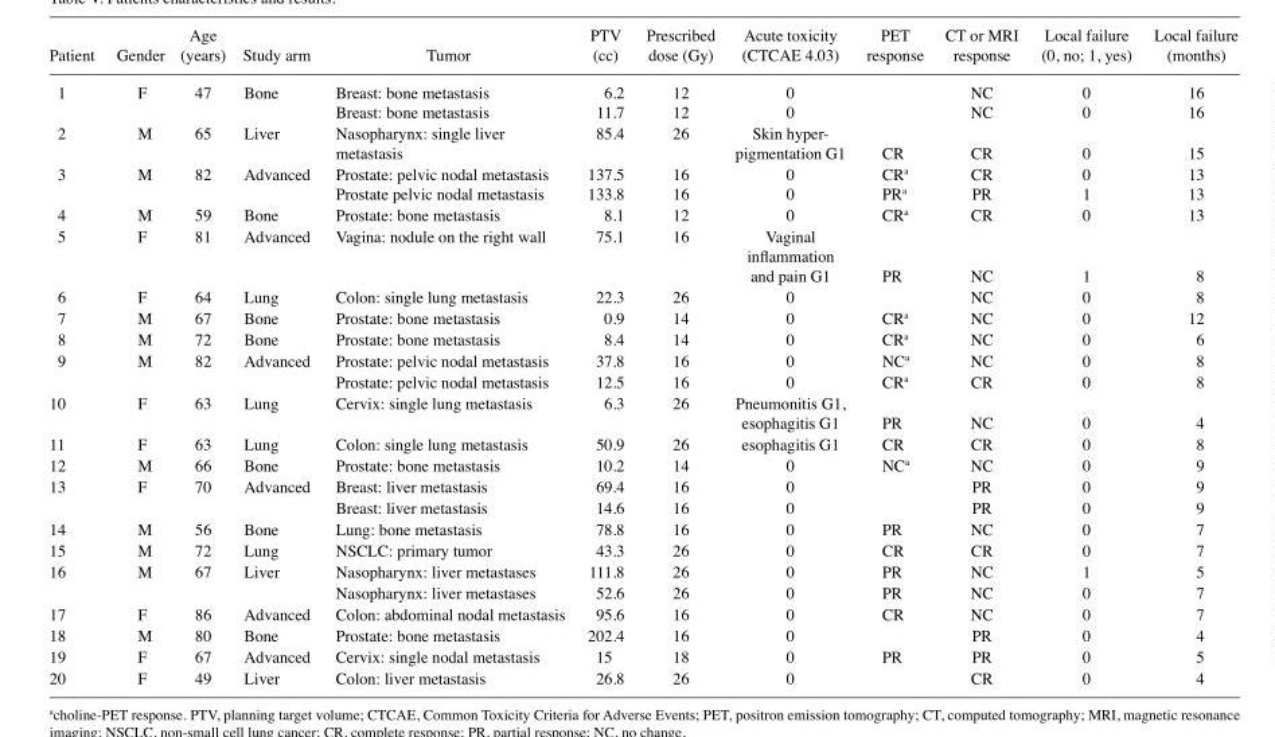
<table><thead><tr><td>Patient</td><td>Gender</td><td>(years)</td><td>Study arm</td><td>Tumor</td><td>(cc)</td><td>dose (Gy)</td><td>(CTCAE 4.03)</td><td>response</td><td>response</td><td>(0, no; 1, yes)</td><td>(months)</td></tr></thead><tbody><tr><td rowspan="2">1</td><td>F</td><td>47</td><td>Bone</td><td>Breast: bone metastasis</td><td>6.2</td><td>12</td><td>0</td><td></td><td>NC</td><td>0</td><td>16</td></tr><tr><td></td><td></td><td></td><td>Breast: bone metastasis</td><td>11.7</td><td>12</td><td>0</td><td></td><td>NC</td><td>0</td><td>16</td></tr><tr><td>2</td><td>M</td><td>65</td><td>Liver</td><td>Nasopharynx: single liver metastasis</td><td>85.4</td><td>26</td><td>Skin hyper- pigmentation G1</td><td>CR</td><td>CR</td><td>0</td><td>15</td></tr><tr><td rowspan="2">3</td><td>M</td><td>82</td><td>Advanced</td><td>Prostate: pelvic nodal metastasis</td><td>137.5</td><td>16</td><td>0</td><td>CR<sup>a</sup></td><td>CR</td><td>0</td><td>13</td></tr><tr><td></td><td></td><td></td><td>Prostate pelvic nodal metastasis</td><td>133.8</td><td>16</td><td>0</td><td>PR<sup>a</sup></td><td>PR</td><td>1</td><td>13</td></tr><tr><td>4</td><td>M</td><td>59</td><td>Bone</td><td>Prostate: bone metastasis</td><td>8.1</td><td>12</td><td>0</td><td>CR<sup>a</sup></td><td>CR</td><td>0</td><td>13</td></tr><tr><td>5</td><td>F</td><td>81</td><td>Advanced</td><td>Vagina: nodule on the right wall</td><td>75.1</td><td>16</td><td>Vaginal inflammation and pain G1</td><td>PR</td><td>NC</td><td>1</td><td>8</td></tr><tr><td>6</td><td>F</td><td>64</td><td>Lung</td><td>Colon: single lung metastasis</td><td>22.3</td><td>26</td><td>0</td><td></td><td>NC</td><td>0</td><td>8</td></tr><tr><td>7</td><td>M</td><td>67</td><td>Bone</td><td>Prostate: bone metastasis</td><td>0.9</td><td>14</td><td>0</td><td>CR<sup>a</sup></td><td>NC</td><td>0</td><td>12</td></tr><tr><td>8</td><td>M</td><td>72</td><td>Bone</td><td>Prostate: bone metastasis</td><td>8.4</td><td>14</td><td>0</td><td>CR<sup>a</sup></td><td>NC</td><td>0</td><td>6</td></tr><tr><td rowspan="2">9</td><td>M</td><td>82</td><td>Advanced</td><td>Prostate: pelvic nodal metastasis</td><td>37.8</td><td>16</td><td>0</td><td>NC<sup>a</sup></td><td>NC</td><td>0</td><td>8</td></tr><tr><td></td><td></td><td></td><td>Prostate: pelvic nodal metastasis</td><td>12.5</td><td>16</td><td>0</td><td>CR<sup>a</sup></td><td>CR</td><td>0</td><td>8</td></tr><tr><td>10</td><td>F</td><td>63</td><td>Lung</td><td>Cervix: single lung metastasis</td><td>6.3</td><td>26</td><td>Pneumonitis G1, esophagitis G1</td><td>PR</td><td>NC</td><td>0</td><td>4</td></tr><tr><td>11</td><td>F</td><td>63</td><td>Lung</td><td>Colon: single lung metastasis</td><td>50.9</td><td>26</td><td>esophagitis G1</td><td>CR</td><td>CR</td><td>0</td><td>8</td></tr><tr><td>12</td><td>M</td><td>66</td><td>Bone</td><td>Prostate: bone metastasis</td><td>10.2</td><td>14</td><td>0</td><td>NC<sup>a</sup></td><td>NC</td><td>0</td><td>9</td></tr><tr><td rowspan="2">13</td><td>F</td><td>70</td><td>Advanced</td><td>Breast: liver metastasis</td><td>69.4</td><td>16</td><td>0</td><td></td><td>PR</td><td>0</td><td>9</td></tr><tr><td></td><td></td><td></td><td>Breast: liver metastasis</td><td>14.6</td><td>16</td><td>0</td><td></td><td>PR</td><td>0</td><td>9</td></tr><tr><td>14</td><td>M</td><td>56</td><td>Bone</td><td>Lung: bone metastasis</td><td>78.8</td><td>16</td><td>0</td><td>PR</td><td>NC</td><td>0</td><td>7</td></tr><tr><td>15</td><td>M</td><td>72</td><td>Lung</td><td>NSCLC: primary tumor</td><td>43.3</td><td>26</td><td>0</td><td>CR</td><td>CR</td><td>0</td><td>7</td></tr><tr><td rowspan="2">16</td><td>M</td><td>67</td><td>Liver</td><td>Nasopharynx: liver metastases</td><td>111.8</td><td>26</td><td>0</td><td>PR</td><td>NC</td><td>1</td><td>5</td></tr><tr><td></td><td></td><td></td><td>Nasopharynx: liver metastases</td><td>52.6</td><td>26</td><td>0</td><td>PR</td><td>NC</td><td>0</td><td>7</td></tr><tr><td>17</td><td>F</td><td>86</td><td>Advanced</td><td>Colon: abdominal nodal metastasis</td><td>95.6</td><td>16</td><td>0</td><td>CR</td><td>NC</td><td>0</td><td>7</td></tr><tr><td>18</td><td>M</td><td>80</td><td>Bone</td><td>Prostate: bone metastasis</td><td>202.4</td><td>16</td><td>0</td><td></td><td>PR</td><td>0</td><td>4</td></tr><tr><td>19</td><td>F</td><td>67</td><td>Advanced</td><td>Cervix: single nodal metastasis</td><td>15</td><td>18</td><td>0</td><td>PR</td><td>PR</td><td>0</td><td>5</td></tr><tr><td>20</td><td>F</td><td>49</td><td>Liver</td><td>Colon: liver metastasis</td><td>26.8</td><td>26</td><td>0</td><td></td><td>CR</td><td>0</td><td>4</td></tr></tbody></table>